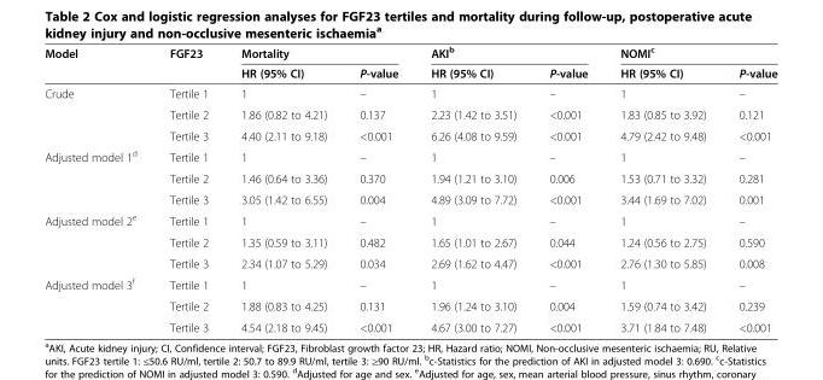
<table><thead><tr><td rowspan="2">Model</td><td rowspan="2">FGF23</td><td colspan="2">Mortality</td><td colspan="2">AKI<sup>b</sup></td><td colspan="2">NOMI<sup>c</sup></td></tr><tr><td>HR (95% CI)</td><td>P-value</td><td>HR (95% CI)</td><td>P-value</td><td>HR (95% CI)</td><td>P-value</td></tr></thead><tbody><tr><td rowspan="3">Crude</td><td>Tertile 1</td><td>1</td><td>–</td><td>1</td><td>–</td><td>1</td><td>–</td></tr><tr><td>Tertile 2</td><td>1.86 (0.82 to 4.21)</td><td>0.137</td><td>2.23 (1.42 to 3.51)</td><td>&lt;0.001</td><td>1.83 (0.85 to 3.92)</td><td>0.121</td></tr><tr><td>Tertile 3</td><td>4.40 (2.11 to 9.18)</td><td>&lt;0.001</td><td>6.26 (4.08 to 9.59)</td><td>&lt;0.001</td><td>4.79 (2.42 to 9.48)</td><td>&lt;0.001</td></tr><tr><td rowspan="3">Adjusted model 1<sup>d</sup></td><td>Tertile 1</td><td>1</td><td>–</td><td>1</td><td>–</td><td>1</td><td>–</td></tr><tr><td>Tertile 2</td><td>1.46 (0.64 to 3.36)</td><td>0.370</td><td>1.94 (1.21 to 3.10)</td><td>0.006</td><td>1.53 (0.71 to 3.32)</td><td>0.281</td></tr><tr><td>Tertile 3</td><td>3.05 (1.42 to 6.55)</td><td>0.004</td><td>4.89 (3.09 to 7.72)</td><td>&lt;0.001</td><td>3.44 (1.69 to 7.02)</td><td>0.001</td></tr><tr><td rowspan="3">Adjusted model 2<sup>e</sup></td><td>Tertile 1</td><td>1</td><td>–</td><td>1</td><td>–</td><td>1</td><td>–</td></tr><tr><td>Tertile 2</td><td>1.35 (0.59 to 3.11)</td><td>0.482</td><td>1.65 (1.01 to 2.67)</td><td>0.044</td><td>1.24 (0.56 to 2.75)</td><td>0.590</td></tr><tr><td>Tertile 3</td><td>2.34 (1.07 to 5.29)</td><td>0.034</td><td>2.69 (1.62 to 4.47)</td><td>&lt;0.001</td><td>2.76 (1.30 to 5.85)</td><td>0.008</td></tr><tr><td rowspan="3">Adjusted model 3<sup>f</sup></td><td>Tertile 1</td><td>1</td><td>–</td><td>1</td><td>–</td><td>1</td><td>–</td></tr><tr><td>Tertile 2</td><td>1.88 (0.83 to 4.25)</td><td>0.131</td><td>1.96 (1.24 to 3.10)</td><td>0.004</td><td>1.59 (0.74 to 3.42)</td><td>0.239</td></tr><tr><td>Tertile 3</td><td>4.54 (2.18 to 9.45)</td><td>&lt;0.001</td><td>4.67 (3.00 to 7.27)</td><td>&lt;0.001</td><td>3.71 (1.84 to 7.48)</td><td>&lt;0.001</td></tr></tbody></table>